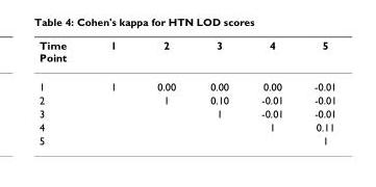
<table><thead><tr><td>Time Point</td><td>1</td><td>2</td><td>3</td><td>4</td><td>5</td></tr></thead><tbody><tr><td>1</td><td>1</td><td>0.00</td><td>0.00</td><td>0.00</td><td>-0.01</td></tr><tr><td>2</td><td></td><td>1</td><td>0.10</td><td>-0.01</td><td>-0.01</td></tr><tr><td>3</td><td></td><td></td><td>1</td><td>-0.01</td><td>-0.01</td></tr><tr><td>4</td><td></td><td></td><td></td><td>1</td><td>0.11</td></tr><tr><td>5</td><td></td><td></td><td></td><td></td><td>1</td></tr></tbody></table>